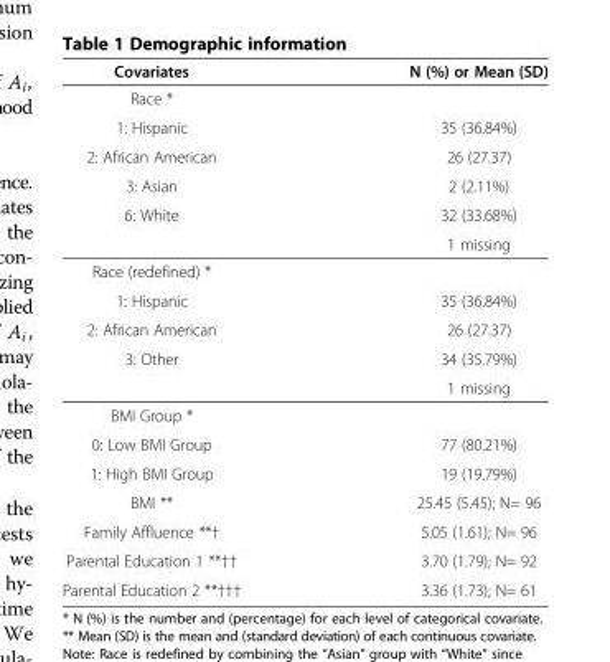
<table><thead><tr><td>Covariates</td><td>N (%) or Mean (SD)</td></tr></thead><tbody><tr><td colspan="2">Race *</td></tr><tr><td>1: Hispanic</td><td>35 (36.84%)</td></tr><tr><td>2: African American</td><td>26 (27.37)</td></tr><tr><td>3: Asian</td><td>2 (2.11%)</td></tr><tr><td rowspan="2">6: White</td><td>32 (33.68%)</td></tr><tr><td>1 missing</td></tr><tr><td colspan="2">Race (redefined) *</td></tr><tr><td>1: Hispanic</td><td>35 (36.84%)</td></tr><tr><td>2: African American</td><td>26 (27.37)</td></tr><tr><td rowspan="2">3: Other</td><td>34 (35.79%)</td></tr><tr><td>1 missing</td></tr><tr><td colspan="2">BMI Group *</td></tr><tr><td>0: Low BMI Group</td><td>77 (80.21%)</td></tr><tr><td>1: High BMI Group</td><td>19 (19.79%)</td></tr><tr><td>BMI **</td><td>25.45 (5.45); N= 96</td></tr><tr><td>Family Affluence **†</td><td>5.05 (1.61); N= 96</td></tr><tr><td>Parental Education 1 **††</td><td>3.70 (1.79); N= 92</td></tr><tr><td>Parental Education 2 **†††</td><td>3.36 (1.73); N= 61</td></tr></tbody></table>